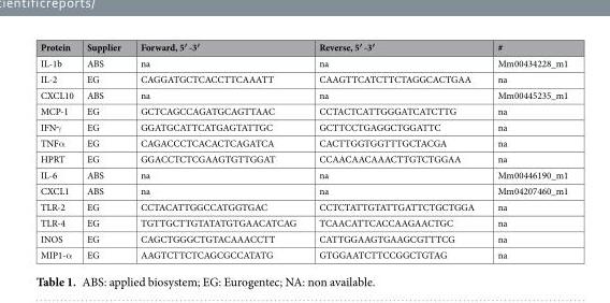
<table><thead><tr><td>Protein</td><td>Supplier</td><td>Forward, 5′ -3′</td><td>Reverse, 5′ -3′</td><td>#</td></tr></thead><tbody><tr><td>IL-1b</td><td>ABS</td><td>na</td><td>na</td><td>Mm00434228_m1</td></tr><tr><td>IL-2</td><td>EG</td><td>CAGGATGCTCACCTTCAAATT</td><td>CAAGTTCATCTTCTAGGCACTGAA</td><td>na</td></tr><tr><td>CXCL10</td><td>ABS</td><td>na</td><td>na</td><td>Mm00445235_m1</td></tr><tr><td>MCP-1</td><td>EG</td><td>GCTCAGCCAGATGCAGTTAAC</td><td>CCTACTCATTGGGATCATCTTG</td><td>na</td></tr><tr><td>IFNγ</td><td>EG</td><td>GGATGCATTCATGAGTATTGC</td><td>GCTTCCTGAGGCTGGATTC</td><td>na</td></tr><tr><td>TNFα</td><td>EG</td><td>CAGACCCTCACACTCAGATCA</td><td>CACTTGGTGGTTTGCTACGA</td><td>na</td></tr><tr><td>HPRT</td><td>EG</td><td>GGACCTCTCGAAGTGTTGGAT</td><td>CCAACAACAAACTTGTCTGGAA</td><td>na</td></tr><tr><td>IL-6</td><td>ABS</td><td>na</td><td>na</td><td>Mm00446190_m1</td></tr><tr><td>CXCL1</td><td>ABS</td><td>na</td><td>na</td><td>Mm04207460_m1</td></tr><tr><td>TLR-2</td><td>EG</td><td>CCTACATTGGCCATGGTGAC</td><td>CCTCTATTGTATTGATTCTGCTGGA</td><td>na</td></tr><tr><td>TLR-4</td><td>EG</td><td>TGTTGCTTGTATATGTGAACATCAG</td><td>TCAACATTCACCAAGAACTGC</td><td>na</td></tr><tr><td>INOS</td><td>EG</td><td>CAGCTGGGCTGTACAAACCTT</td><td>CATTGGAAGTGAAGCGTTTCG</td><td>na</td></tr><tr><td>MIP1-α</td><td>EG</td><td>AAGTCTTCTCAGCGCCATATG</td><td>GTGGAATCTTCCGGCTGTAG</td><td>na</td></tr></tbody></table>